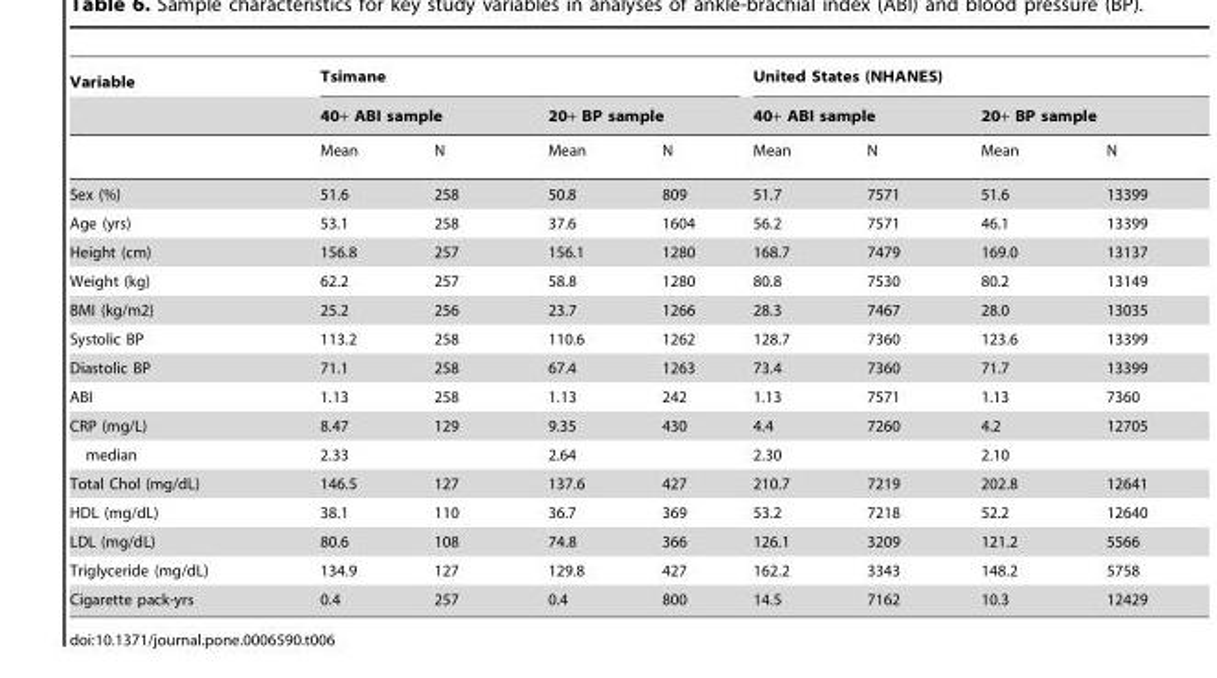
<table><thead><tr><td rowspan="3">Variable</td><td colspan="4">Tsimane</td><td colspan="4">United States (NHANES)</td></tr><tr><td colspan="2">40+ ABI sample</td><td colspan="2">20+ BP sample</td><td colspan="2">40+ ABI sample</td><td colspan="2">20+ BP sample</td></tr><tr><td>Mean</td><td>N</td><td>Mean</td><td>N</td><td>Mean</td><td>N</td><td>Mean</td><td>N</td></tr></thead><tbody><tr><td>Sex (%)</td><td>51.6</td><td>258</td><td>50.8</td><td>809</td><td>51.7</td><td>7571</td><td>51.6</td><td>13399</td></tr><tr><td>Age (yrs)</td><td>53.1</td><td>258</td><td>37.6</td><td>1604</td><td>56.2</td><td>7571</td><td>46.1</td><td>13399</td></tr><tr><td>Height (cm)</td><td>156.8</td><td>257</td><td>156.1</td><td>1280</td><td>168.7</td><td>7479</td><td>169.0</td><td>13137</td></tr><tr><td>Weight (kg)</td><td>62.2</td><td>257</td><td>58.8</td><td>1280</td><td>80.8</td><td>7530</td><td>80.2</td><td>13149</td></tr><tr><td>BMI (kg/m2)</td><td>25.2</td><td>256</td><td>23.7</td><td>1266</td><td>28.3</td><td>7467</td><td>28.0</td><td>13035</td></tr><tr><td>Systolic BP</td><td>113.2</td><td>258</td><td>110.6</td><td>1262</td><td>128.7</td><td>7360</td><td>123.6</td><td>13399</td></tr><tr><td>Diastolic BP</td><td>71.1</td><td>258</td><td>67.4</td><td>1263</td><td>73.4</td><td>7360</td><td>71.7</td><td>13399</td></tr><tr><td>ABI</td><td>1.13</td><td>258</td><td>1.13</td><td>242</td><td>1.13</td><td>7571</td><td>1.13</td><td>7360</td></tr><tr><td>CRP (mg/L)</td><td>8.47</td><td>129</td><td>9.35</td><td>430</td><td>4.4</td><td>7260</td><td>4.2</td><td>12705</td></tr><tr><td>median</td><td>2.33</td><td></td><td>2.64</td><td></td><td>2.30</td><td></td><td>2.10</td><td></td></tr><tr><td>Total Chol (mg/dL)</td><td>146.5</td><td>127</td><td>137.6</td><td>427</td><td>210.7</td><td>7219</td><td>202.8</td><td>12641</td></tr><tr><td>HDL (mg/dL)</td><td>38.1</td><td>110</td><td>36.7</td><td>369</td><td>53.2</td><td>7218</td><td>52.2</td><td>12640</td></tr><tr><td>LDL (mg/dL)</td><td>80.6</td><td>108</td><td>74.8</td><td>366</td><td>126.1</td><td>3209</td><td>121.2</td><td>5566</td></tr><tr><td>Triglyceride (mg/dL)</td><td>134.9</td><td>127</td><td>129.8</td><td>427</td><td>162.2</td><td>3343</td><td>148.2</td><td>5758</td></tr><tr><td>Cigarette pack-yrs</td><td>0.4</td><td>257</td><td>0.4</td><td>800</td><td>14.5</td><td>7162</td><td>10.3</td><td>12429</td></tr></tbody></table>